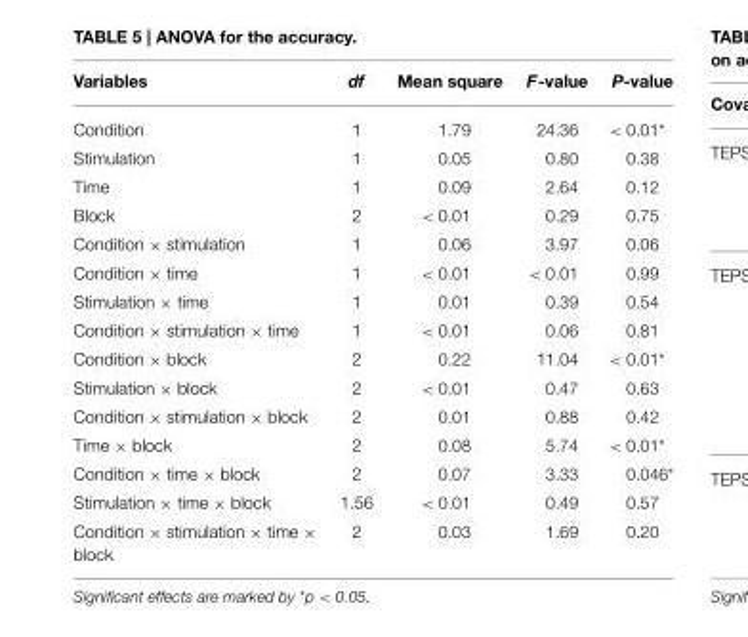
<table><thead><tr><td>Variables</td><td>df</td><td>Mean square</td><td>F-value</td><td>P-value</td></tr></thead><tbody><tr><td>Condition</td><td>1</td><td>1.79</td><td>24.36</td><td>&lt; 0.01*</td></tr><tr><td>Stimulation</td><td>1</td><td>0.05</td><td>0.80</td><td>0.38</td></tr><tr><td>Time</td><td>1</td><td>0.09</td><td>2.64</td><td>0.12</td></tr><tr><td>Block</td><td>2</td><td>&lt; 0.01</td><td>0.29</td><td>0.75</td></tr><tr><td>Condition × stimulation</td><td>1</td><td>0.06</td><td>3.97</td><td>0.06</td></tr><tr><td>Condition × time</td><td>1</td><td>&lt; 0.01</td><td>&lt; 0.01</td><td>0.99</td></tr><tr><td>Stimulation × time</td><td>1</td><td>0.01</td><td>0.39</td><td>0.54</td></tr><tr><td>Condition × stimulation × time</td><td>1</td><td>&lt; 0.01</td><td>0.06</td><td>0.81</td></tr><tr><td>Condition × block</td><td>2</td><td>0.22</td><td>11.04</td><td>&lt; 0.01*</td></tr><tr><td>Stimulation × block</td><td>2</td><td>&lt; 0.01</td><td>0.47</td><td>0.63</td></tr><tr><td>Condition × stimulation × block</td><td>2</td><td>0.01</td><td>0.88</td><td>0.42</td></tr><tr><td>Time × block</td><td>2</td><td>0.08</td><td>5.74</td><td>&lt; 0.01*</td></tr><tr><td>Condition × time × block</td><td>2</td><td>0.07</td><td>3.33</td><td>0.046*</td></tr><tr><td>Stimulation × time × block</td><td>1.56</td><td>&lt; 0.01</td><td>0.49</td><td>0.57</td></tr><tr><td>Condition × stimulation × time × block</td><td>2</td><td>0.03</td><td>1.69</td><td>0.20</td></tr></tbody></table>